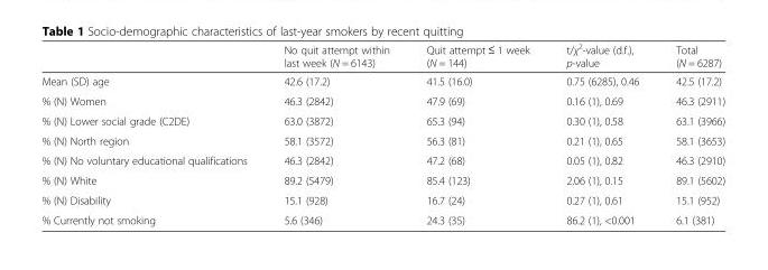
<table><thead><tr><td></td><td>No quit attempt within last week (N = 6143)</td><td>Quit attempt ≤ 1 week (N = 144)</td><td>t/χ<sup>2</sup>-value (d.f.), p-value</td><td>Total (N = 6287)</td></tr></thead><tbody><tr><td>Mean (SD) age</td><td>42.6 (17.2)</td><td>41.5 (16.0)</td><td>0.75 (6285), 0.46</td><td>42.5 (17.2)</td></tr><tr><td>% (N) Women</td><td>46.3 (2842)</td><td>47.9 (69)</td><td>0.16 (1), 0.69</td><td>46.3 (2911)</td></tr><tr><td>% (N) Lower social grade (C2DE)</td><td>63.0 (3872)</td><td>65.3 (94)</td><td>0.30 (1), 0.58</td><td>63.1 (3966)</td></tr><tr><td>% (N) North region</td><td>58.1 (3572)</td><td>56.3 (81)</td><td>0.21 (1), 0.65</td><td>58.1 (3653)</td></tr><tr><td>% (N) No voluntary educational qualifications</td><td>46.3 (2842)</td><td>47.2 (68)</td><td>0.05 (1), 0.82</td><td>46.3 (2910)</td></tr><tr><td>% (N) White</td><td>89.2 (5479)</td><td>85.4 (123)</td><td>2.06 (1), 0.15</td><td>89.1 (5602)</td></tr><tr><td>% (N) Disability</td><td>15.1 (928)</td><td>16.7 (24)</td><td>0.27 (1), 0.61</td><td>15.1 (952)</td></tr><tr><td>% Currently not smoking</td><td>5.6 (346)</td><td>24.3 (35)</td><td>86.2 (1), &lt;0.001</td><td>6.1 (381)</td></tr></tbody></table>